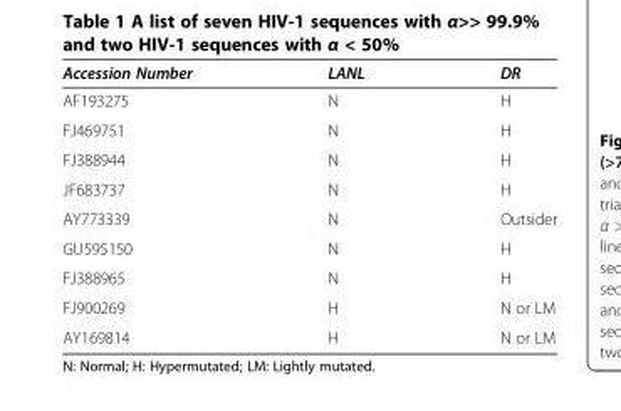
<table><thead><tr><td>Accession Number</td><td>LANL</td><td>DR</td></tr></thead><tbody><tr><td>AF193275</td><td>N</td><td>H</td></tr><tr><td>FJ469751</td><td>N</td><td>H</td></tr><tr><td>FJ388944</td><td>N</td><td>H</td></tr><tr><td>JF683737</td><td>N</td><td>H</td></tr><tr><td>AY773339</td><td>N</td><td>Outsider</td></tr><tr><td>GU595150</td><td>N</td><td>H</td></tr><tr><td>FJ388965</td><td>N</td><td>H</td></tr><tr><td>FJ900269</td><td>H</td><td>N or LM</td></tr><tr><td>AY169814</td><td>H</td><td>N or LM</td></tr></tbody></table>